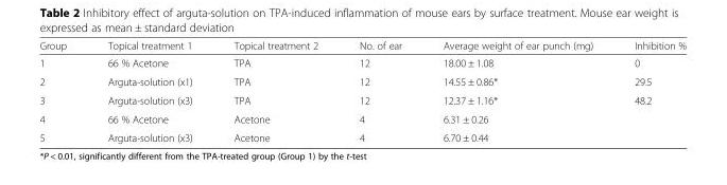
<table><thead><tr><td>Group</td><td>Topical treatment 1</td><td>Topical treatment 2</td><td>No. of ear</td><td>Average weight of ear punch (mg)</td><td>Inhibition %</td></tr></thead><tbody><tr><td>1</td><td>66 % Acetone</td><td>TPA</td><td>12</td><td>18.00 ± 1.08</td><td>0</td></tr><tr><td>2</td><td>Arguta-solution (x1)</td><td>TPA</td><td>12</td><td>14.55 ± 0.86*</td><td>29.5</td></tr><tr><td>3</td><td>Arguta-solution (x3)</td><td>TPA</td><td>12</td><td>12.37 ± 1.16*</td><td>48.2</td></tr><tr><td>4</td><td>66 % Acetone</td><td>Acetone</td><td>4</td><td>6.31 ± 0.26</td><td></td></tr><tr><td>5</td><td>Arguta-solution (x3)</td><td>Acetone</td><td>4</td><td>6.70 ± 0.44</td><td></td></tr></tbody></table>